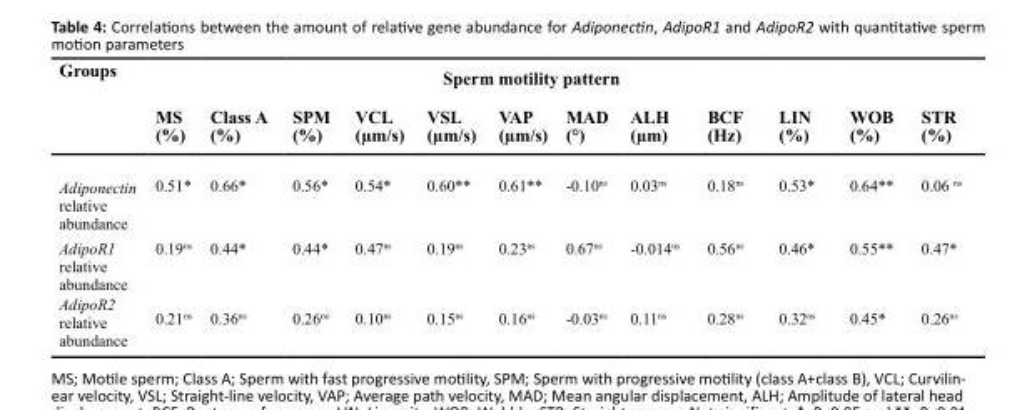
<table><thead><tr><td rowspan="2">Groups</td><td colspan="12">Sperm motility pattern</td></tr><tr><td>MS (%)</td><td>Class A (%)</td><td>SPM (%)</td><td>VCL (µm/s)</td><td>VSL (µm/s)</td><td>VAP (µm/s)</td><td>MAD (°)</td><td>ALH (µm)</td><td>BCF (Hz)</td><td>LIN (%)</td><td>WOB (%)</td><td>STR (%)</td></tr></thead><tbody><tr><td>Adiponectin relative abundance</td><td>0.51*</td><td>0.66*</td><td>0.56*</td><td>0.54*</td><td>0.60**</td><td>0.61**</td><td>-0.10<sup>ns</sup></td><td>0.03<sup>ns</sup></td><td>0.18<sup>ns</sup></td><td>0.53*</td><td>0.64**</td><td>0.06 <sup>ns</sup></td></tr><tr><td>AdipoR1 relative abundance</td><td>0.19<sup>ns</sup></td><td>0.44*</td><td>0.44*</td><td>0.47<sup>ns</sup></td><td>0.19<sup>ns</sup></td><td>0.23<sup>ns</sup></td><td>0.67<sup>ns</sup></td><td>-0.014<sup>ns</sup></td><td>0.56<sup>ns</sup></td><td>0.46*</td><td>0.55**</td><td>0.47*</td></tr><tr><td>AdipoR2 relative abundance</td><td>0.21<sup>ns</sup></td><td>0.36<sup>ns</sup></td><td>0.26<sup>ns</sup></td><td>0.10<sup>ns</sup></td><td>0.15<sup>ns</sup></td><td>0.16<sup>ns</sup></td><td>-0.03<sup>ns</sup></td><td>0.11<sup>ns</sup></td><td>0.28<sup>ns</sup></td><td>0.32<sup>ns</sup></td><td>0.45*</td><td>0.26<sup>ns</sup></td></tr></tbody></table>